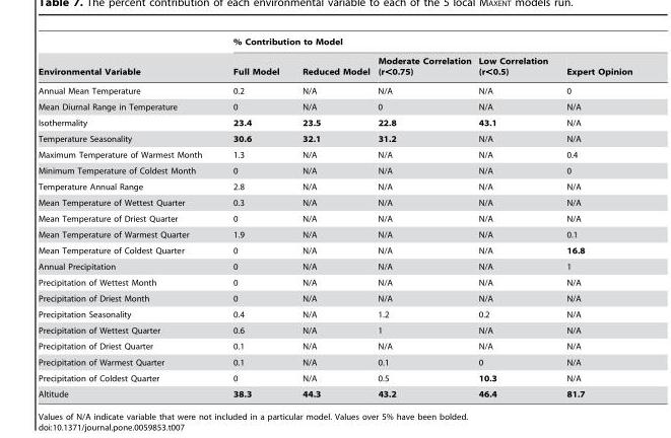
<table><thead><tr><td rowspan="2">Environmental Variable</td><td colspan="5">% Contribution to Model</td></tr><tr><td>Full Model</td><td>Reduced Model</td><td>Moderate Correlation (r&lt;0.75)</td><td>Low Correlation (r&lt;0.5)</td><td>Expert Opinion</td></tr></thead><tbody><tr><td>Annual Mean Temperature</td><td>0.2</td><td>N/A</td><td>N/A</td><td>N/A</td><td>0</td></tr><tr><td>Mean Diurnal Range in Temperature</td><td>0</td><td>N/A</td><td>0</td><td>N/A</td><td>N/A</td></tr><tr><td>Isothermality</td><td>23.4</td><td>23.5</td><td>22.8</td><td>43.1</td><td>N/A</td></tr><tr><td>Temperature Seasonality</td><td>30.6</td><td>32.1</td><td>31.2</td><td>N/A</td><td>N/A</td></tr><tr><td>Maximum Temperature of Warmest Month</td><td>1.3</td><td>N/A</td><td>N/A</td><td>N/A</td><td>0.4</td></tr><tr><td>Minimum Temperature of Coldest Month</td><td>0</td><td>N/A</td><td>N/A</td><td>N/A</td><td>0</td></tr><tr><td>Temperature Annual Range</td><td>2.8</td><td>N/A</td><td>N/A</td><td>N/A</td><td>N/A</td></tr><tr><td>Mean Temperature of Wettest Quarter</td><td>0.3</td><td>N/A</td><td>N/A</td><td>N/A</td><td>N/A</td></tr><tr><td>Mean Temperature of Driest Quarter</td><td>0</td><td>N/A</td><td>N/A</td><td>N/A</td><td>N/A</td></tr><tr><td>Mean Temperature of Warmest Quarter</td><td>1.9</td><td>N/A</td><td>N/A</td><td>N/A</td><td>0.1</td></tr><tr><td>Mean Temperature of Coldest Quarter</td><td>0</td><td>N/A</td><td>N/A</td><td>N/A</td><td>16.8</td></tr><tr><td>Annual Precipitation</td><td>0</td><td>N/A</td><td>N/A</td><td>N/A</td><td>1</td></tr><tr><td>Precipitation of Wettest Month</td><td>0</td><td>N/A</td><td>N/A</td><td>N/A</td><td>N/A</td></tr><tr><td>Precipitation of Driest Month</td><td>0</td><td>N/A</td><td>N/A</td><td>N/A</td><td>N/A</td></tr><tr><td>Precipitation Seasonality</td><td>0.4</td><td>N/A</td><td>1.2</td><td>0.2</td><td>N/A</td></tr><tr><td>Precipitation of Wettest Quarter</td><td>0.6</td><td>N/A</td><td>1</td><td>N/A</td><td>N/A</td></tr><tr><td>Precipitation of Driest Quarter</td><td>0.1</td><td>N/A</td><td>N/A</td><td>N/A</td><td>N/A</td></tr><tr><td>Precipitation of Warmest Quarter</td><td>0.1</td><td>N/A</td><td>0.1</td><td>0</td><td>N/A</td></tr><tr><td>Precipitation of Coldest Quarter</td><td>0</td><td>N/A</td><td>0.5</td><td>10.3</td><td>N/A</td></tr><tr><td>Altitude</td><td>38.3</td><td>44.3</td><td>43.2</td><td>46.4</td><td>81.7</td></tr></tbody></table>